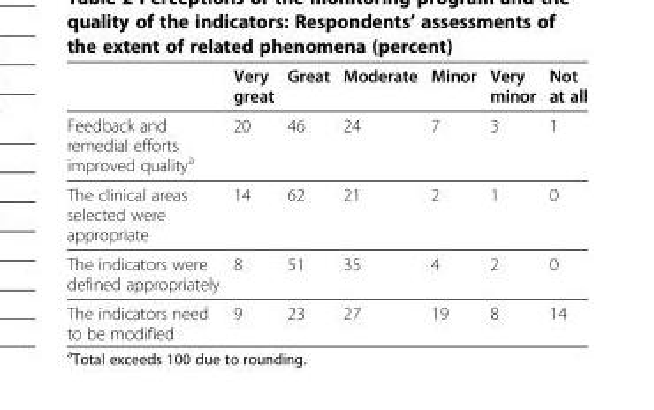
<table><thead><tr><td></td><td>Very great</td><td>Great</td><td>Moderate</td><td>Minor</td><td>Very minor</td><td>Not at all</td></tr></thead><tbody><tr><td>Feedback and remedial efforts improved quality<sup>a</sup></td><td>20</td><td>46</td><td>24</td><td>7</td><td>3</td><td>1</td></tr><tr><td>The clinical areas selected were appropriate</td><td>14</td><td>62</td><td>21</td><td>2</td><td>1</td><td>0</td></tr><tr><td>The indicators were defined appropriately</td><td>8</td><td>51</td><td>35</td><td>4</td><td>2</td><td>0</td></tr><tr><td>The indicators need to be modified</td><td>9</td><td>23</td><td>27</td><td>19</td><td>8</td><td>14</td></tr></tbody></table>